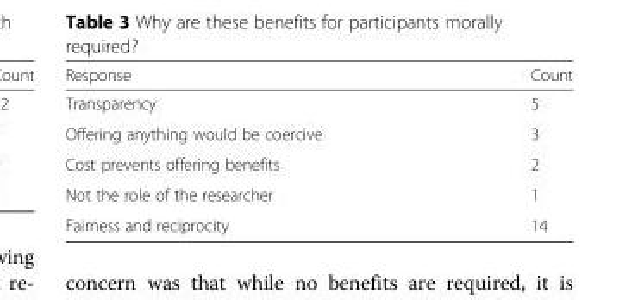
<table><thead><tr><td>Response</td><td>Count</td></tr></thead><tbody><tr><td>Transparency</td><td>5</td></tr><tr><td>Offering anything would be coercive</td><td>3</td></tr><tr><td>Cost prevents offering benefits</td><td>2</td></tr><tr><td>Not the role of the researcher</td><td>1</td></tr><tr><td>Fairness and reciprocity</td><td>14</td></tr></tbody></table>